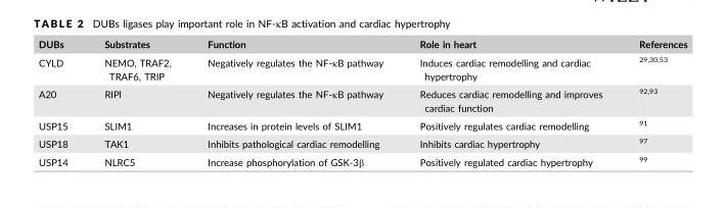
<table><thead><tr><td>DUBs</td><td>Substrates</td><td>Function</td><td>Role in heart</td><td>References</td></tr></thead><tbody><tr><td>CYLD</td><td>NEMO, TRAF2, TRAF6, TRIP</td><td>Negatively regulates the NF-κB pathway</td><td>Induces cardiac remodelling and cardiac hypertrophy</td><td>29,30,53</td></tr><tr><td>A20</td><td>RIPl</td><td>Negatively regulates the NF-κB pathway</td><td>Reduces cardiac remodelling and improves cardiac function</td><td>92,93</td></tr><tr><td>USP15</td><td>SLIM1</td><td>Increases in protein levels of SLIM1</td><td>Positively regulates cardiac remodelling</td><td>91</td></tr><tr><td>USP18</td><td>TAK1</td><td>Inhibits pathological cardiac remodelling</td><td>Inhibits cardiac hypertrophy</td><td>97</td></tr><tr><td>USP14</td><td>NLRC5</td><td>Increase phosphorylation of GSK-3β</td><td>Positively regulated cardiac hypertrophy</td><td>99</td></tr></tbody></table>